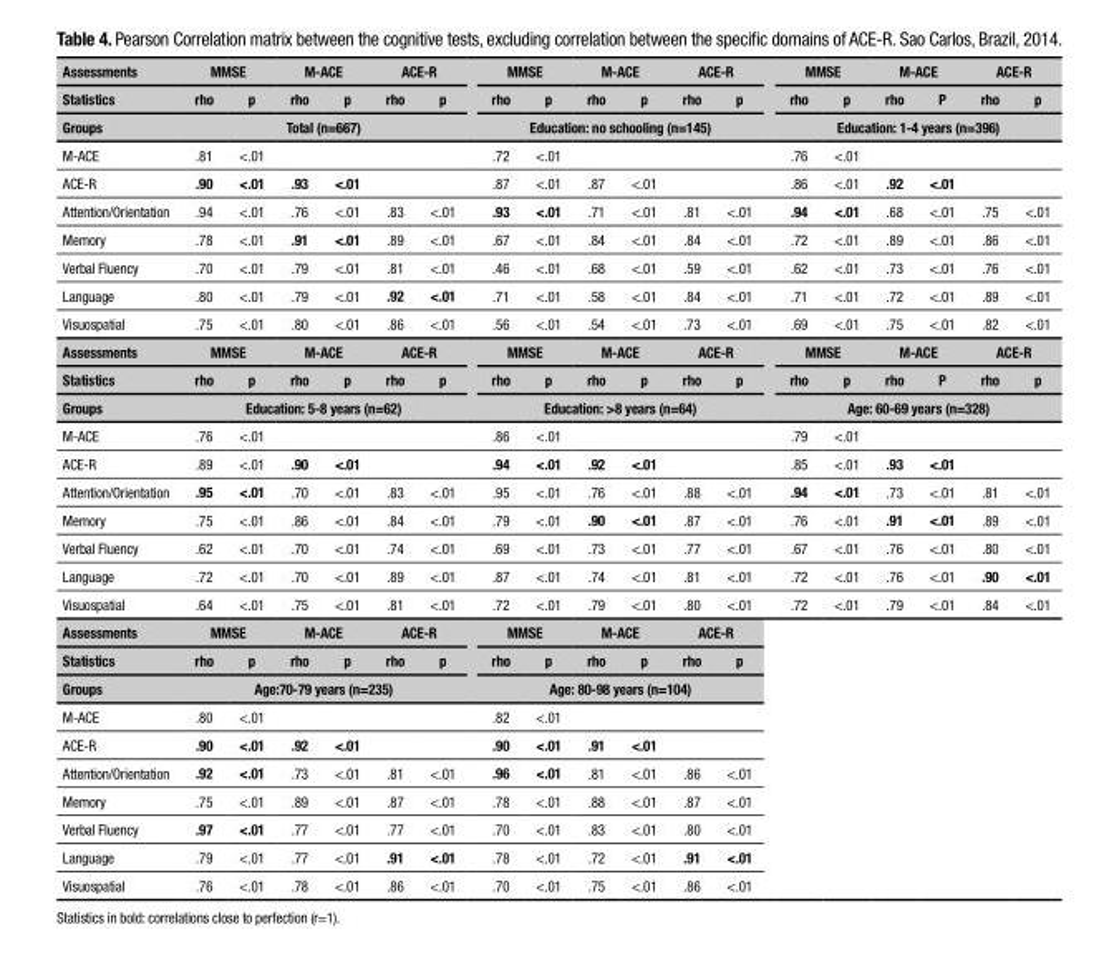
<table><thead><tr><td rowspan="3">Assessments Statistics Groups</td><td colspan="2">MMSE</td><td colspan="2">M-ACE</td><td colspan="2">ACE-R</td><td colspan="2">MMSE</td><td colspan="2">M-ACE</td><td colspan="2">ACE-R</td><td colspan="2">MMSE</td><td colspan="2">M-ACE</td><td colspan="2">ACE-R</td></tr><tr><td>rho</td><td>p</td><td>rho</td><td>p</td><td>rho</td><td>p</td><td>rho</td><td>p</td><td>rho</td><td>p</td><td>rho</td><td>p</td><td>rho</td><td>p</td><td>rho</td><td>P</td><td>rho</td><td>p</td></tr><tr><td colspan="6">Total (n=667)</td><td colspan="6">Education: no schooling (n=145)</td><td colspan="6">Education: 1-4 years (n=396)</td></tr></thead><tbody><tr><td>M-ACE</td><td>.81</td><td>&lt;.01</td><td></td><td></td><td></td><td></td><td>.72</td><td>&lt;.01</td><td></td><td></td><td></td><td></td><td>.76</td><td>&lt;.01</td><td></td><td></td><td></td><td></td></tr><tr><td>ACE-R</td><td>.90</td><td>&lt;.01</td><td>.93</td><td>&lt;.01</td><td></td><td></td><td>.87</td><td>&lt;.01</td><td>.87</td><td>&lt;.01</td><td></td><td></td><td>.86</td><td>&lt;.01</td><td>.92</td><td>&lt;.01</td><td></td><td></td></tr><tr><td>Attention/Orientation</td><td>.94</td><td>&lt;.01</td><td>.76</td><td>&lt;.01</td><td>.83</td><td>&lt;.01</td><td>.93</td><td>&lt;.01</td><td>.71</td><td>&lt;.01</td><td>.81</td><td>&lt;.01</td><td>.94</td><td>&lt;.01</td><td>.68</td><td>&lt;.01</td><td>.75</td><td>&lt;.01</td></tr><tr><td>Memory</td><td>.78</td><td>&lt;.01</td><td>.91</td><td>&lt;.01</td><td>.89</td><td>&lt;.01</td><td>.67</td><td>&lt;.01</td><td>.84</td><td>&lt;.01</td><td>.84</td><td>&lt;.01</td><td>.72</td><td>&lt;.01</td><td>.89</td><td>&lt;.01</td><td>.86</td><td>&lt;.01</td></tr><tr><td>Verbal Fluency</td><td>.70</td><td>&lt;.01</td><td>.79</td><td>&lt;.01</td><td>.81</td><td>&lt;.01</td><td>.46</td><td>&lt;.01</td><td>.68</td><td>&lt;.01</td><td>.59</td><td>&lt;.01</td><td>.62</td><td>&lt;.01</td><td>.73</td><td>&lt;.01</td><td>.76</td><td>&lt;.01</td></tr><tr><td>Language</td><td>.80</td><td>&lt;.01</td><td>.79</td><td>&lt;.01</td><td>.92</td><td>&lt;.01</td><td>.71</td><td>&lt;.01</td><td>.58</td><td>&lt;.01</td><td>.84</td><td>&lt;.01</td><td>.71</td><td>&lt;.01</td><td>.72</td><td>&lt;.01</td><td>.89</td><td>&lt;.01</td></tr><tr><td>Visuospatial</td><td>.75</td><td>&lt;.01</td><td>.80</td><td>&lt;.01</td><td>.86</td><td>&lt;.01</td><td>.56</td><td>&lt;.01</td><td>.54</td><td>&lt;.01</td><td>.73</td><td>&lt;.01</td><td>.69</td><td>&lt;.01</td><td>.75</td><td>&lt;.01</td><td>.82</td><td>&lt;.01</td></tr><tr><td>Assessments</td><td colspan="2">MMSE</td><td colspan="2">M-ACE</td><td colspan="2">ACE-R</td><td colspan="2">MMSE</td><td colspan="2">M-ACE</td><td colspan="2">ACE-R</td><td colspan="2">MMSE</td><td colspan="2">M-ACE</td><td colspan="2">ACE-R</td></tr><tr><td>Statistics</td><td>rho</td><td>p</td><td>rho</td><td>p</td><td>rho</td><td>p</td><td>rho</td><td>p</td><td>rho</td><td>p</td><td>rho</td><td>p</td><td>rho</td><td>p</td><td>rho</td><td>P</td><td>rho</td><td>p</td></tr><tr><td>Groups</td><td colspan="6">Education: 5-8 years (n=62)</td><td colspan="6">Education: &gt;8 years (n=64)</td><td colspan="6">Age: 60-69 years (n=328)</td></tr><tr><td>M-ACE</td><td>.76</td><td>&lt;.01</td><td></td><td></td><td></td><td></td><td>.86</td><td>&lt;.01</td><td></td><td></td><td></td><td></td><td>.79</td><td>&lt;.01</td><td></td><td></td><td></td><td></td></tr><tr><td>ACE-R</td><td>.89</td><td>&lt;.01</td><td>.90</td><td>&lt;.01</td><td></td><td></td><td>.94</td><td>&lt;.01</td><td>.92</td><td>&lt;.01</td><td></td><td></td><td>.85</td><td>&lt;.01</td><td>.93</td><td>&lt;.01</td><td></td><td></td></tr><tr><td>Attention/Orientation</td><td>.95</td><td>&lt;.01</td><td>.70</td><td>&lt;.01</td><td>.83</td><td>&lt;.01</td><td>.95</td><td>&lt;.01</td><td>.76</td><td>&lt;.01</td><td>.88</td><td>&lt;.01</td><td>.94</td><td>&lt;.01</td><td>.73</td><td>&lt;.01</td><td>.81</td><td>&lt;.01</td></tr><tr><td>Memory</td><td>.75</td><td>&lt;.01</td><td>.86</td><td>&lt;.01</td><td>.84</td><td>&lt;.01</td><td>.79</td><td>&lt;.01</td><td>.90</td><td>&lt;.01</td><td>.87</td><td>&lt;.01</td><td>.76</td><td>&lt;.01</td><td>.91</td><td>&lt;.01</td><td>.89</td><td>&lt;.01</td></tr><tr><td>Verbal Fluency</td><td>.62</td><td>&lt;.01</td><td>.70</td><td>&lt;.01</td><td>.74</td><td>&lt;.01</td><td>.69</td><td>&lt;.01</td><td>.73</td><td>&lt;.01</td><td>.77</td><td>&lt;.01</td><td>.67</td><td>&lt;.01</td><td>.76</td><td>&lt;.01</td><td>.80</td><td>&lt;.01</td></tr><tr><td>Language</td><td>.72</td><td>&lt;.01</td><td>.70</td><td>&lt;.01</td><td>.89</td><td>&lt;.01</td><td>.87</td><td>&lt;.01</td><td>.74</td><td>&lt;.01</td><td>.81</td><td>&lt;.01</td><td>.72</td><td>&lt;.01</td><td>.76</td><td>&lt;.01</td><td>.90</td><td>&lt;.01</td></tr><tr><td>Visuospatial</td><td>.64</td><td>&lt;.01</td><td>.75</td><td>&lt;.01</td><td>.81</td><td>&lt;.01</td><td>.72</td><td>&lt;.01</td><td>.79</td><td>&lt;.01</td><td>.80</td><td>&lt;.01</td><td>.72</td><td>&lt;.01</td><td>.79</td><td>&lt;.01</td><td>.84</td><td>&lt;.01</td></tr><tr><td>Assessments</td><td colspan="2">MMSE</td><td colspan="2">M-ACE</td><td colspan="2">ACE-R</td><td colspan="2">MMSE</td><td colspan="2">M-ACE</td><td colspan="2">ACE-R</td><td></td><td></td><td></td><td></td><td></td><td></td></tr><tr><td>Statistics</td><td>rho</td><td>p</td><td>rho</td><td>p</td><td>rho</td><td>p</td><td>rho</td><td>p</td><td>rho</td><td>p</td><td>rho</td><td>p</td><td></td><td></td><td></td><td></td><td></td><td></td></tr><tr><td>Groups</td><td colspan="6">Age:70-79 years (n=235)</td><td colspan="6">Age: 80-98 years (n=104)</td><td></td><td></td><td></td><td></td><td></td><td></td></tr><tr><td>M-ACE</td><td>.80</td><td>&lt;.01</td><td></td><td></td><td></td><td></td><td>.82</td><td>&lt;.01</td><td></td><td></td><td></td><td></td><td></td><td></td><td></td><td></td><td></td><td></td></tr><tr><td>ACE-R</td><td>.90</td><td>&lt;.01</td><td>.92</td><td>&lt;.01</td><td></td><td></td><td>.90</td><td>&lt;.01</td><td>.91</td><td>&lt;.01</td><td></td><td></td><td></td><td></td><td></td><td></td><td></td><td></td></tr><tr><td>Attention/Orientation</td><td>.92</td><td>&lt;.01</td><td>.73</td><td>&lt;.01</td><td>.81</td><td>&lt;.01</td><td>.96</td><td>&lt;.01</td><td>.81</td><td>&lt;.01</td><td>.86</td><td>&lt;.01</td><td></td><td></td><td></td><td></td><td></td><td></td></tr><tr><td>Memory</td><td>.75</td><td>&lt;.01</td><td>.89</td><td>&lt;.01</td><td>.87</td><td>&lt;.01</td><td>.78</td><td>&lt;.01</td><td>.88</td><td>&lt;.01</td><td>.87</td><td>&lt;.01</td><td></td><td></td><td></td><td></td><td></td><td></td></tr><tr><td>Verbal Fluency</td><td>.97</td><td>&lt;.01</td><td>.77</td><td>&lt;.01</td><td>.77</td><td>&lt;.01</td><td>.70</td><td>&lt;.01</td><td>.83</td><td>&lt;.01</td><td>.80</td><td>&lt;.01</td><td></td><td></td><td></td><td></td><td></td><td></td></tr><tr><td>Language</td><td>.79</td><td>&lt;.01</td><td>.77</td><td>&lt;.01</td><td>.91</td><td>&lt;.01</td><td>.78</td><td>&lt;.01</td><td>.72</td><td>&lt;.01</td><td>.91</td><td>&lt;.01</td><td></td><td></td><td></td><td></td><td></td><td></td></tr><tr><td>Visuospatial</td><td>.76</td><td>&lt;.01</td><td>.78</td><td>&lt;.01</td><td>.86</td><td>&lt;.01</td><td>.70</td><td>&lt;.01</td><td>.75</td><td>&lt;.01</td><td>.86</td><td>&lt;.01</td><td></td><td></td><td></td><td></td><td></td><td></td></tr></tbody></table>